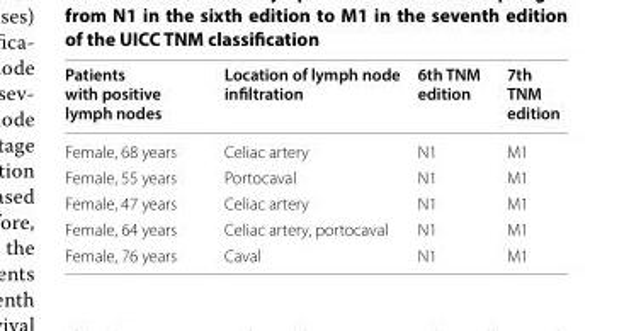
<table><thead><tr><td>Patients with positive lymph nodes</td><td>Location of lymph node infiltration</td><td>6th TNM edition</td><td>7th TNM edition</td></tr></thead><tbody><tr><td>Female, 68 years</td><td>Celiac artery</td><td>N1</td><td>M1</td></tr><tr><td>Female, 55 years</td><td>Portocaval</td><td>N1</td><td>M1</td></tr><tr><td>Female, 47 years</td><td>Celiac artery</td><td>N1</td><td>M1</td></tr><tr><td>Female, 64 years</td><td>Celiac artery, portocaval</td><td>N1</td><td>M1</td></tr><tr><td>Female, 76 years</td><td>Caval</td><td>N1</td><td>M1</td></tr></tbody></table>